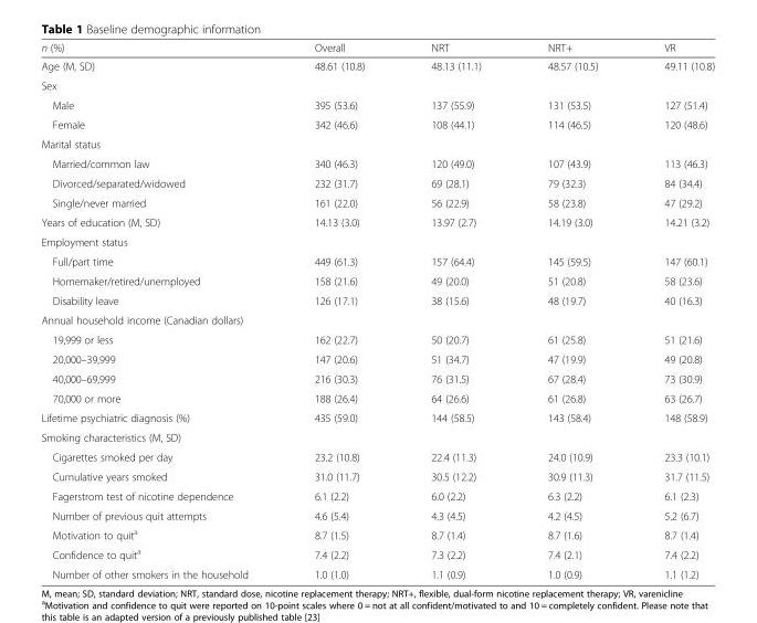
<table><thead><tr><td>n (%)</td><td>Overall</td><td>NRT</td><td>NRT+</td><td>VR</td></tr></thead><tbody><tr><td>Age (M, SD)</td><td>48.61 (10.8)</td><td>48.13 (11.1)</td><td>48.57 (10.5)</td><td>49.11 (10.8)</td></tr><tr><td colspan="5">Sex</td></tr><tr><td>Male</td><td>395 (53.6)</td><td>137 (55.9)</td><td>131 (53.5)</td><td>127 (51.4)</td></tr><tr><td>Female</td><td>342 (46.6)</td><td>108 (44.1)</td><td>114 (46.5)</td><td>120 (48.6)</td></tr><tr><td colspan="5">Marital status</td></tr><tr><td>Married/common law</td><td>340 (46.3)</td><td>120 (49.0)</td><td>107 (43.9)</td><td>113 (46.3)</td></tr><tr><td>Divorced/separated/widowed</td><td>232 (31.7)</td><td>69 (28.1)</td><td>79 (32.3)</td><td>84 (34.4)</td></tr><tr><td>Single/never married</td><td>161 (22.0)</td><td>56 (22.9)</td><td>58 (23.8)</td><td>47 (29.2)</td></tr><tr><td>Years of education (M, SD)</td><td>14.13 (3.0)</td><td>13.97 (2.7)</td><td>14.19 (3.0)</td><td>14.21 (3.2)</td></tr><tr><td colspan="5">Employment status</td></tr><tr><td>Full/part time</td><td>449 (61.3)</td><td>157 (64.4)</td><td>145 (59.5)</td><td>147 (60.1)</td></tr><tr><td>Homemaker/retired/unemployed</td><td>158 (21.6)</td><td>49 (20.0)</td><td>51 (20.8)</td><td>58 (23.6)</td></tr><tr><td>Disability leave</td><td>126 (17.1)</td><td>38 (15.6)</td><td>48 (19.7)</td><td>40 (16.3)</td></tr><tr><td colspan="5">Annual household income (Canadian dollars)</td></tr><tr><td>19,999 or less</td><td>162 (22.7)</td><td>50 (20.7)</td><td>61 (25.8)</td><td>51 (21.6)</td></tr><tr><td>20,000–39,999</td><td>147 (20.6)</td><td>51 (34.7)</td><td>47 (19.9)</td><td>49 (20.8)</td></tr><tr><td>40,000–69,999</td><td>216 (30.3)</td><td>76 (31.5)</td><td>67 (28.4)</td><td>73 (30.9)</td></tr><tr><td>70,000 or more</td><td>188 (26.4)</td><td>64 (26.6)</td><td>61 (26.8)</td><td>63 (26.7)</td></tr><tr><td>Lifetime psychiatric diagnosis (%)</td><td>435 (59.0)</td><td>144 (58.5)</td><td>143 (58.4)</td><td>148 (58.9)</td></tr><tr><td colspan="5">Smoking characteristics (M, SD)</td></tr><tr><td>Cigarettes smoked per day</td><td>23.2 (10.8)</td><td>22.4 (11.3)</td><td>24.0 (10.9)</td><td>23.3 (10.1)</td></tr><tr><td>Cumulative years smoked</td><td>31.0 (11.7)</td><td>30.5 (12.2)</td><td>30.9 (11.3)</td><td>31.7 (11.5)</td></tr><tr><td>Fagerstrom test of nicotine dependence</td><td>6.1 (2.2)</td><td>6.0 (2.2)</td><td>6.3 (2.2)</td><td>6.1 (2.3)</td></tr><tr><td>Number of previous quit attempts</td><td>4.6 (5.4)</td><td>4.3 (4.5)</td><td>4.2 (4.5)</td><td>5.2 (6.7)</td></tr><tr><td>Motivation to quit<sup>a</sup></td><td>8.7 (1.5)</td><td>8.7 (1.4)</td><td>8.7 (1.6)</td><td>8.7 (1.4)</td></tr><tr><td>Confidence to quit<sup>a</sup></td><td>7.4 (2.2)</td><td>7.3 (2.2)</td><td>7.4 (2.1)</td><td>7.4 (2.2)</td></tr><tr><td>Number of other smokers in the household</td><td>1.0 (1.0)</td><td>1.1 (0.9)</td><td>1.0 (0.9)</td><td>1.1 (1.2)</td></tr></tbody></table>